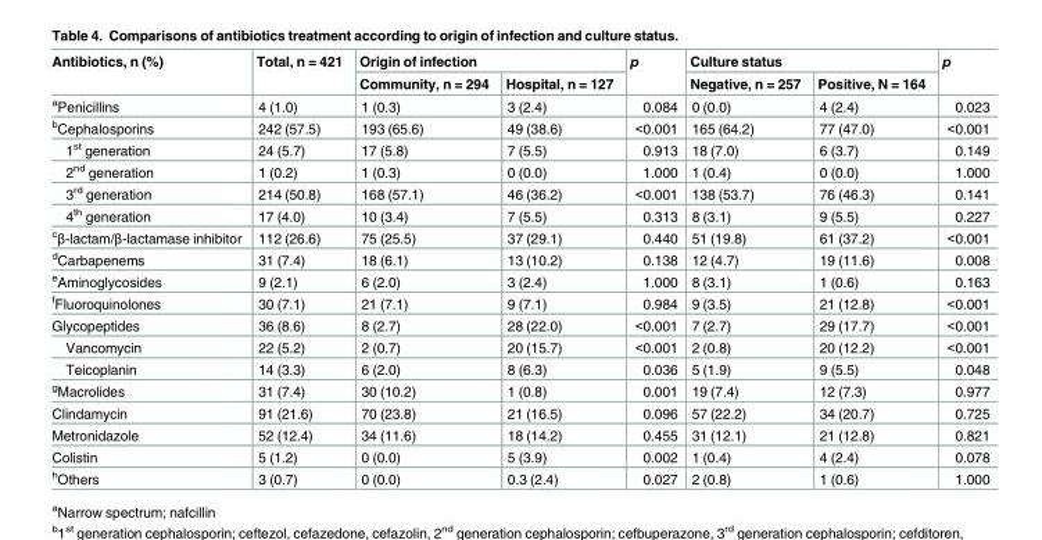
<table><thead><tr><td rowspan="2">Antibiotics, n (%)</td><td rowspan="2">Total, n = 421</td><td colspan="2">Origin of infection</td><td rowspan="2">p</td><td colspan="2">Culture status</td><td rowspan="2">p</td></tr><tr><td>Community, n = 294</td><td>Hospital, n = 127</td><td>Negative, n = 257</td><td>Positive, N = 164</td></tr></thead><tbody><tr><td><sup>a</sup>Penicillins</td><td>4 (1.0)</td><td>1 (0.3)</td><td>3 (2.4)</td><td>0.084</td><td>0 (0.0)</td><td>4 (2.4)</td><td>0.023</td></tr><tr><td><sup>b</sup>Cephalosporins</td><td>242 (57.5)</td><td>193 (65.6)</td><td>49 (38.6)</td><td>&lt;0.001</td><td>165 (64.2)</td><td>77 (47.0)</td><td>&lt;0.001</td></tr><tr><td>1<sup>st</sup> generation</td><td>24 (5.7)</td><td>17 (5.8)</td><td>7 (5.5)</td><td>0.913</td><td>18 (7.0)</td><td>6 (3.7)</td><td>0.149</td></tr><tr><td>2<sup>nd</sup> generation</td><td>1 (0.2)</td><td>1 (0.3)</td><td>0 (0.0)</td><td>1.000</td><td>1 (0.4)</td><td>0 (0.0)</td><td>1.000</td></tr><tr><td>3<sup>rd</sup> generation</td><td>214 (50.8)</td><td>168 (57.1)</td><td>46 (36.2)</td><td>&lt;0.001</td><td>138 (53.7)</td><td>76 (46.3)</td><td>0.141</td></tr><tr><td>4<sup>th</sup> generation</td><td>17 (4.0)</td><td>10 (3.4)</td><td>7 (5.5)</td><td>0.313</td><td>8 (3.1)</td><td>9 (5.5)</td><td>0.227</td></tr><tr><td><sup>c</sup>β-lactam/β-lactamase inhibitor</td><td>112 (26.6)</td><td>75 (25.5)</td><td>37 (29.1)</td><td>0.440</td><td>51 (19.8)</td><td>61 (37.2)</td><td>&lt;0.001</td></tr><tr><td><sup>d</sup>Carbapenems</td><td>31 (7.4)</td><td>18 (6.1)</td><td>13 (10.2)</td><td>0.138</td><td>12 (4.7)</td><td>19 (11.6)</td><td>0.008</td></tr><tr><td><sup>e</sup>Aminoglycosides</td><td>9 (2.1)</td><td>6 (2.0)</td><td>3 (2.4)</td><td>1.000</td><td>8 (3.1)</td><td>1 (0.6)</td><td>0.163</td></tr><tr><td><sup>f</sup>Fluoroquinolones</td><td>30 (7.1)</td><td>21 (7.1)</td><td>9 (7.1)</td><td>0.984</td><td>9 (3.5)</td><td>21 (12.8)</td><td>&lt;0.001</td></tr><tr><td>Glycopeptides</td><td>36 (8.6)</td><td>8 (2.7)</td><td>28 (22.0)</td><td>&lt;0.001</td><td>7 (2.7)</td><td>29 (17.7)</td><td>&lt;0.001</td></tr><tr><td>Vancomycin</td><td>22 (5.2)</td><td>2 (0.7)</td><td>20 (15.7)</td><td>&lt;0.001</td><td>2 (0.8)</td><td>20 (12.2)</td><td>&lt;0.001</td></tr><tr><td>Teicoplanin</td><td>14 (3.3)</td><td>6 (2.0)</td><td>8 (6.3)</td><td>0.036</td><td>5 (1.9)</td><td>9 (5.5)</td><td>0.048</td></tr><tr><td><sup>g</sup>Macrolides</td><td>31 (7.4)</td><td>30 (10.2)</td><td>1 (0.8)</td><td>0.001</td><td>19 (7.4)</td><td>12 (7.3)</td><td>0.977</td></tr><tr><td>Clindamycin</td><td>91 (21.6)</td><td>70 (23.8)</td><td>21 (16.5)</td><td>0.096</td><td>57 (22.2)</td><td>34 (20.7)</td><td>0.725</td></tr><tr><td>Metronidazole</td><td>52 (12.4)</td><td>34 (11.6)</td><td>18 (14.2)</td><td>0.455</td><td>31 (12.1)</td><td>21 (12.8)</td><td>0.821</td></tr><tr><td>Colistin</td><td>5 (1.2)</td><td>0 (0.0)</td><td>5 (3.9)</td><td>0.002</td><td>1 (0.4)</td><td>4 (2.4)</td><td>0.078</td></tr><tr><td><sup>h</sup>Others</td><td>3 (0.7)</td><td>0 (0.0)</td><td>0.3 (2.4)</td><td>0.027</td><td>2 (0.8)</td><td>1 (0.6)</td><td>1.000</td></tr></tbody></table>